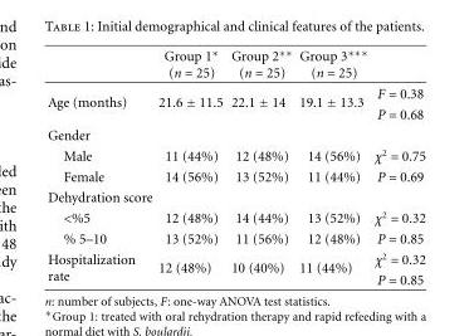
<table><thead><tr><td></td><td>Group 1∗ (n = 25)</td><td>Group 2∗∗ (n = 25)</td><td>Group 3∗∗∗ (n = 25)</td><td></td></tr></thead><tbody><tr><td rowspan="2">Age (months)</td><td rowspan="2">21.6 ± 11.5</td><td rowspan="2">22.1 ± 14</td><td rowspan="2">19.1 ± 13.3</td><td>F = 0.38</td></tr><tr><td>P = 0.68</td></tr><tr><td colspan="5">Gender</td></tr><tr><td>Male</td><td>11 (44%)</td><td>12 (48%)</td><td>14 (56%)</td><td>χ<sup>2</sup> = 0.75</td></tr><tr><td>Female</td><td>14 (56%)</td><td>13 (52%)</td><td>11 (44%)</td><td>P = 0.69</td></tr><tr><td colspan="5">Dehydration score</td></tr><tr><td>&lt;%5</td><td>12 (48%)</td><td>14 (44%)</td><td>13 (52%)</td><td>χ<sup>2</sup> = 0.32</td></tr><tr><td>% 5–10</td><td>13 (52%)</td><td>11 (56%)</td><td>12 (48%)</td><td>P = 0.85</td></tr><tr><td rowspan="2">Hospitalization rate</td><td rowspan="2">12 (48%)</td><td rowspan="2">10 (40%)</td><td rowspan="2">11 (44%)</td><td>χ<sup>2</sup> = 0.32</td></tr><tr><td>P = 0.85</td></tr></tbody></table>